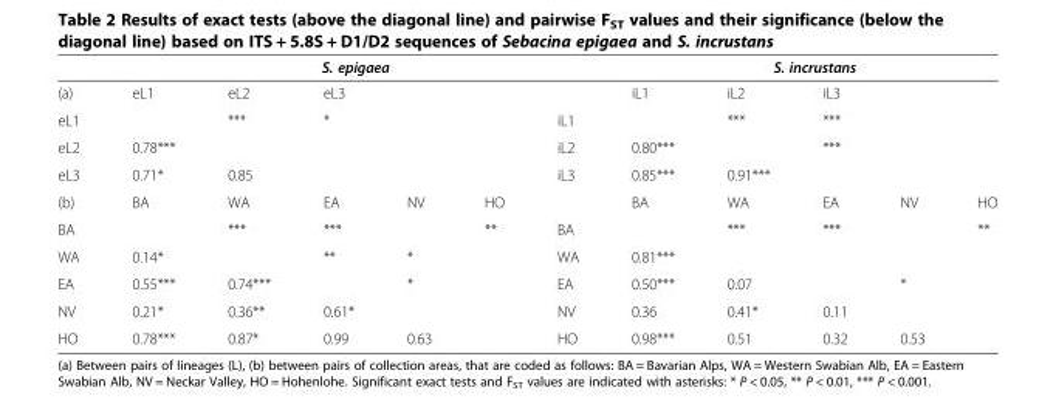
<table><thead><tr><td rowspan="2">(a)</td><td rowspan="2">eL1</td><td rowspan="2">eL2</td><td rowspan="2">S. epigaea eL3</td><td rowspan="2"></td><td rowspan="2"></td><td rowspan="2"></td><td rowspan="2">iL1</td><td colspan="2">S. incrustans</td><td rowspan="2"></td><td rowspan="2"></td></tr><tr><td>iL2</td><td>iL3</td></tr></thead><tbody><tr><td>eL1</td><td></td><td>***</td><td>*</td><td></td><td></td><td>iL1</td><td></td><td>***</td><td>***</td><td></td><td></td></tr><tr><td>eL2</td><td>0.78***</td><td></td><td></td><td></td><td></td><td>iL2</td><td>0.80***</td><td></td><td>***</td><td></td><td></td></tr><tr><td>eL3</td><td>0.71*</td><td>0.85</td><td></td><td></td><td></td><td>iL3</td><td>0.85***</td><td>0.91***</td><td></td><td></td><td></td></tr><tr><td>(b)</td><td>BA</td><td>WA</td><td>EA</td><td>NV</td><td>HO</td><td></td><td>BA</td><td>WA</td><td>EA</td><td>NV</td><td>HO</td></tr><tr><td>BA</td><td></td><td>***</td><td>***</td><td></td><td>**</td><td>BA</td><td></td><td>***</td><td>***</td><td></td><td>**</td></tr><tr><td>WA</td><td>0.14*</td><td></td><td>**</td><td>*</td><td></td><td>WA</td><td>0.81***</td><td></td><td></td><td></td><td></td></tr><tr><td>EA</td><td>0.55***</td><td>0.74***</td><td></td><td>*</td><td></td><td>EA</td><td>0.50***</td><td>0.07</td><td></td><td>*</td><td></td></tr><tr><td>NV</td><td>0.21*</td><td>0.36**</td><td>0.61*</td><td></td><td></td><td>NV</td><td>0.36</td><td>0.41*</td><td>0.11</td><td></td><td></td></tr><tr><td>HO</td><td>0.78***</td><td>0.87*</td><td>0.99</td><td>0.63</td><td></td><td>HO</td><td>0.98***</td><td>0.51</td><td>0.32</td><td>0.53</td><td></td></tr></tbody></table>